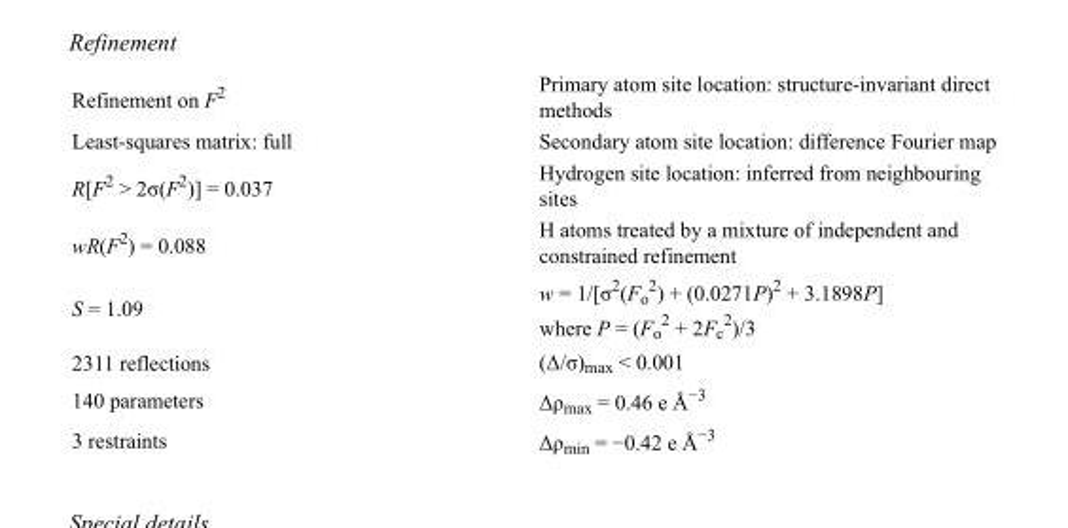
<table><tbody><tr><td>Refinement on F<sup>2</sup></td><td>Primary atom site location: structure-invariant direct methods</td></tr><tr><td>Least-squares matrix: full</td><td>Secondary atom site location: difference Fourier map</td></tr><tr><td>R[F<sup>2</sup> &gt; 2σ(F<sup>2</sup>)] = 0.037</td><td>Hydrogen site location: inferred from neighbouring sites</td></tr><tr><td>wR(F<sup>2</sup>) = 0.088</td><td>H atoms treated by a mixture of independent and constrained refinement</td></tr><tr><td>S = 1.09</td><td>w = 1/[σ<sup>2</sup>(F<sub>o</sub> <sup>2</sup>) + (0.0271P)<sup>2</sup> + 3.1898P] where P = (F<sub>o</sub> <sup>2</sup> + 2F<sub>c</sub> <sup>2</sup>)/3</td></tr><tr><td>2311 reflections</td><td>(Δ/σ)<sub>max</sub> &lt; 0.001</td></tr><tr><td>140 parameters</td><td>Δρ<sub>max</sub> = 0.46 e Å<sup>−3</sup></td></tr><tr><td>3 restraints</td><td>Δρ<sub>min</sub> = −0.42 e Å<sup>−3</sup></td></tr></tbody></table>